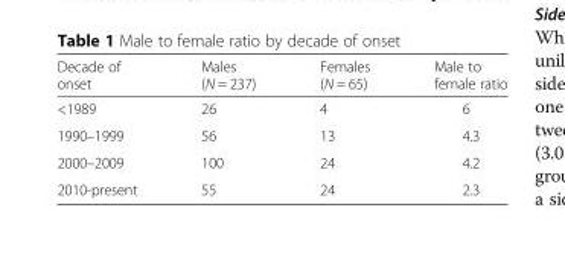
<table><thead><tr><td>Decade of onset</td><td>Males (N = 237)</td><td>Females (N = 65)</td><td>Male to female ratio</td></tr></thead><tbody><tr><td>&lt;1989</td><td>26</td><td>4</td><td>6</td></tr><tr><td>1990–1999</td><td>56</td><td>13</td><td>4.3</td></tr><tr><td>2000–2009</td><td>100</td><td>24</td><td>4.2</td></tr><tr><td>2010-present</td><td>55</td><td>24</td><td>2.3</td></tr></tbody></table>